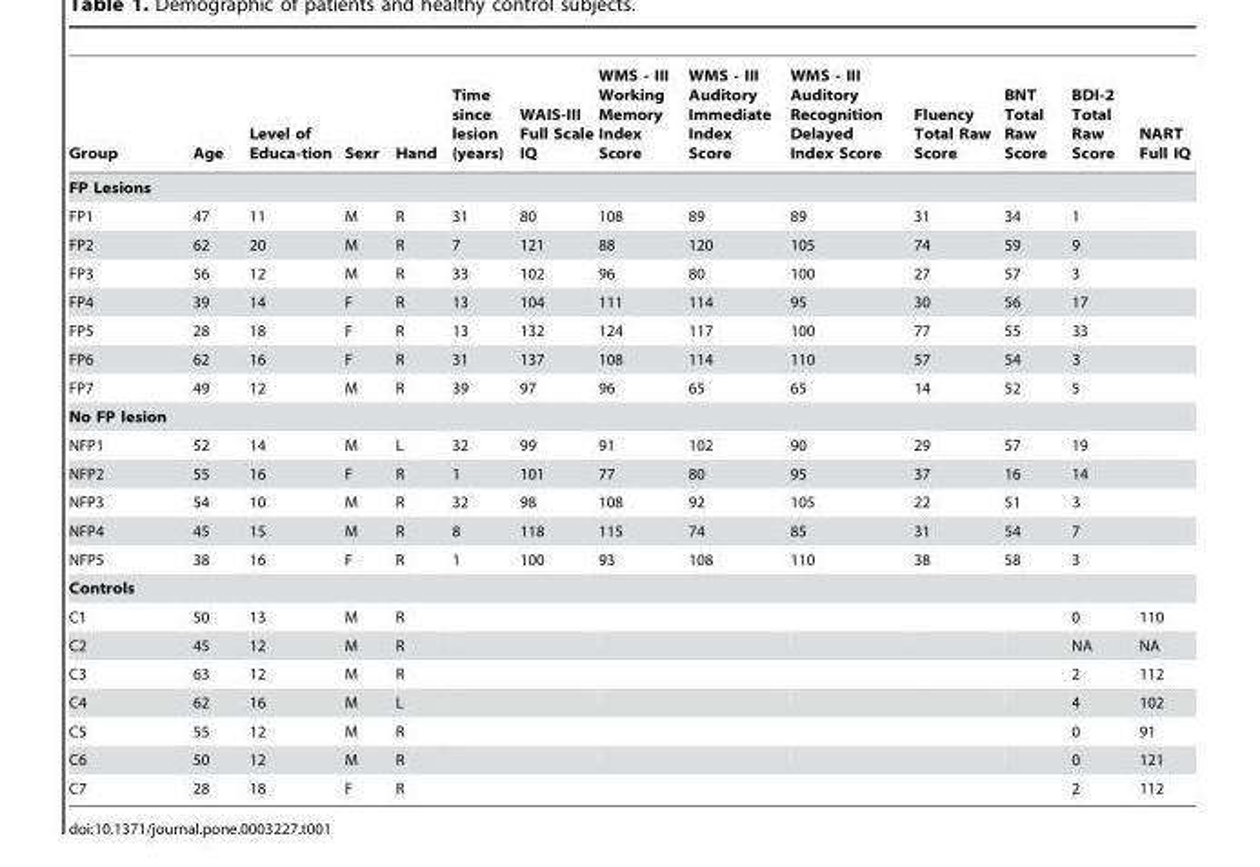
<table><thead><tr><td>Group</td><td>Age</td><td>Level of Educa-tion</td><td>Sexr</td><td>Hand</td><td>Time since lesion (years)</td><td>WAIS-III Full Scale IQ</td><td>WMS - III Working Memory Index Score</td><td>WMS - III Auditory Immediate Index Score</td><td>WMS - III Auditory Recognition Delayed Index Score</td><td>Fluency Total Raw Score</td><td>BNT Total Raw Score</td><td>BDI-2 Total Raw Score</td><td>NART Full IQ</td></tr></thead><tbody><tr><td colspan="14">FP Lesions</td></tr><tr><td>FP1</td><td>47</td><td>11</td><td>M</td><td>R</td><td>31</td><td>80</td><td>108</td><td>89</td><td>89</td><td>31</td><td>34</td><td>1</td><td></td></tr><tr><td>FP2</td><td>62</td><td>20</td><td>M</td><td>R</td><td>7</td><td>121</td><td>88</td><td>120</td><td>105</td><td>74</td><td>59</td><td>9</td><td></td></tr><tr><td>FP3</td><td>56</td><td>12</td><td>M</td><td>R</td><td>33</td><td>102</td><td>96</td><td>80</td><td>100</td><td>27</td><td>57</td><td>3</td><td></td></tr><tr><td>FP4</td><td>39</td><td>14</td><td>F</td><td>R</td><td>13</td><td>104</td><td>111</td><td>114</td><td>95</td><td>30</td><td>56</td><td>17</td><td></td></tr><tr><td>FP5</td><td>28</td><td>18</td><td>F</td><td>R</td><td>13</td><td>132</td><td>124</td><td>117</td><td>100</td><td>77</td><td>55</td><td>33</td><td></td></tr><tr><td>FP6</td><td>62</td><td>16</td><td>F</td><td>R</td><td>31</td><td>137</td><td>108</td><td>114</td><td>110</td><td>57</td><td>54</td><td>3</td><td></td></tr><tr><td>FP7</td><td>49</td><td>12</td><td>M</td><td>R</td><td>39</td><td>97</td><td>96</td><td>65</td><td>65</td><td>14</td><td>52</td><td>5</td><td></td></tr><tr><td colspan="14">No FP lesion</td></tr><tr><td>NFP1</td><td>52</td><td>14</td><td>M</td><td>L</td><td>32</td><td>99</td><td>91</td><td>102</td><td>90</td><td>29</td><td>57</td><td>19</td><td></td></tr><tr><td>NFP2</td><td>55</td><td>16</td><td>F</td><td>R</td><td>1</td><td>101</td><td>77</td><td>80</td><td>95</td><td>37</td><td>16</td><td>14</td><td></td></tr><tr><td>NFP3</td><td>54</td><td>10</td><td>M</td><td>R</td><td>32</td><td>98</td><td>108</td><td>92</td><td>105</td><td>22</td><td>51</td><td>3</td><td></td></tr><tr><td>NFP4</td><td>45</td><td>15</td><td>M</td><td>R</td><td>8</td><td>118</td><td>115</td><td>74</td><td>85</td><td>31</td><td>54</td><td>7</td><td></td></tr><tr><td>NFP5</td><td>38</td><td>16</td><td>F</td><td>R</td><td>1</td><td>100</td><td>93</td><td>108</td><td>110</td><td>38</td><td>58</td><td>3</td><td></td></tr><tr><td colspan="14">Controls</td></tr><tr><td>C1</td><td>50</td><td>13</td><td>M</td><td>R</td><td></td><td></td><td></td><td></td><td></td><td></td><td></td><td>0</td><td>110</td></tr><tr><td>C2</td><td>45</td><td>12</td><td>M</td><td>R</td><td></td><td></td><td></td><td></td><td></td><td></td><td></td><td>NA</td><td>NA</td></tr><tr><td>C3</td><td>63</td><td>12</td><td>M</td><td>R</td><td></td><td></td><td></td><td></td><td></td><td></td><td></td><td>2</td><td>112</td></tr><tr><td>C4</td><td>62</td><td>16</td><td>M</td><td>L</td><td></td><td></td><td></td><td></td><td></td><td></td><td></td><td>4</td><td>102</td></tr><tr><td>C5</td><td>55</td><td>12</td><td>M</td><td>R</td><td></td><td></td><td></td><td></td><td></td><td></td><td></td><td>0</td><td>91</td></tr><tr><td>C6</td><td>50</td><td>12</td><td>M</td><td>R</td><td></td><td></td><td></td><td></td><td></td><td></td><td></td><td>0</td><td>121</td></tr><tr><td>C7</td><td>28</td><td>18</td><td>F</td><td>R</td><td></td><td></td><td></td><td></td><td></td><td></td><td></td><td>2</td><td>112</td></tr></tbody></table>